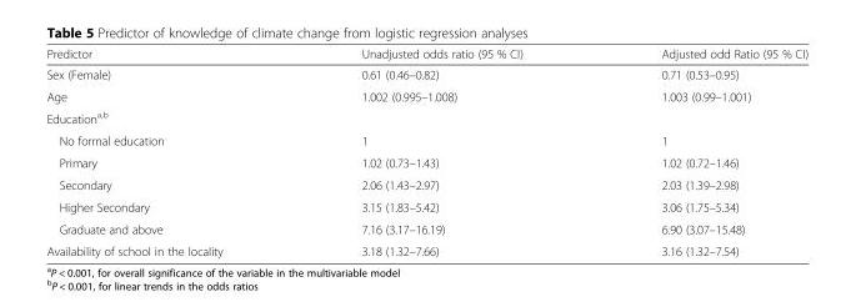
<table><thead><tr><td>Predictor</td><td>Unadjusted odds ratio (95 % CI)</td><td>Adjusted odd Ratio (95 % CI)</td></tr></thead><tbody><tr><td>Sex (Female)</td><td>0.61 (0.46–0.82)</td><td>0.71 (0.53–0.95)</td></tr><tr><td>Age</td><td>1.002 (0.995–1.008)</td><td>1.003 (0.99–1.001)</td></tr><tr><td colspan="3">Education<sup>a,b</sup></td></tr><tr><td>No formal education</td><td>1</td><td>1</td></tr><tr><td>Primary</td><td>1.02 (0.73–1.43)</td><td>1.02 (0.72–1.46)</td></tr><tr><td>Secondary</td><td>2.06 (1.43–2.97)</td><td>2.03 (1.39–2.98)</td></tr><tr><td>Higher Secondary</td><td>3.15 (1.83–5.42)</td><td>3.06 (1.75–5.34)</td></tr><tr><td>Graduate and above</td><td>7.16 (3.17–16.19)</td><td>6.90 (3.07–15.48)</td></tr><tr><td>Availability of school in the locality</td><td>3.18 (1.32–7.66)</td><td>3.16 (1.32–7.54)</td></tr></tbody></table>